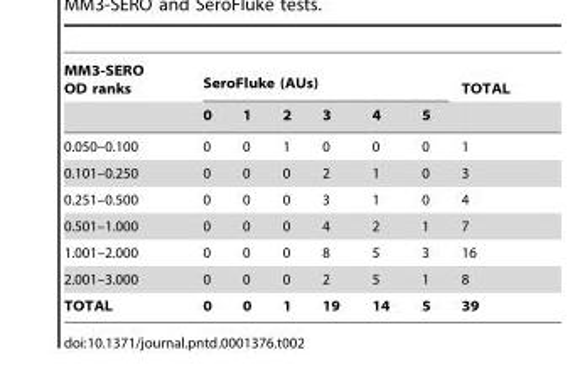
<table><thead><tr><td rowspan="2">MM3-SERO OD ranks</td><td colspan="6">SeroFluke (AUs)</td><td rowspan="2">TOTAL</td></tr><tr><td>0</td><td>1</td><td>2</td><td>3</td><td>4</td><td>5</td></tr></thead><tbody><tr><td>0.050–0.100</td><td>0</td><td>0</td><td>1</td><td>0</td><td>0</td><td>0</td><td>1</td></tr><tr><td>0.101–0.250</td><td>0</td><td>0</td><td>0</td><td>2</td><td>1</td><td>0</td><td>3</td></tr><tr><td>0.251–0.500</td><td>0</td><td>0</td><td>0</td><td>3</td><td>1</td><td>0</td><td>4</td></tr><tr><td>0.501–1.000</td><td>0</td><td>0</td><td>0</td><td>4</td><td>2</td><td>1</td><td>7</td></tr><tr><td>1.001–2.000</td><td>0</td><td>0</td><td>0</td><td>8</td><td>5</td><td>3</td><td>16</td></tr><tr><td>2.001–3.000</td><td>0</td><td>0</td><td>0</td><td>2</td><td>5</td><td>1</td><td>8</td></tr><tr><td>TOTAL</td><td>0</td><td>0</td><td>1</td><td>19</td><td>14</td><td>5</td><td>39</td></tr></tbody></table>